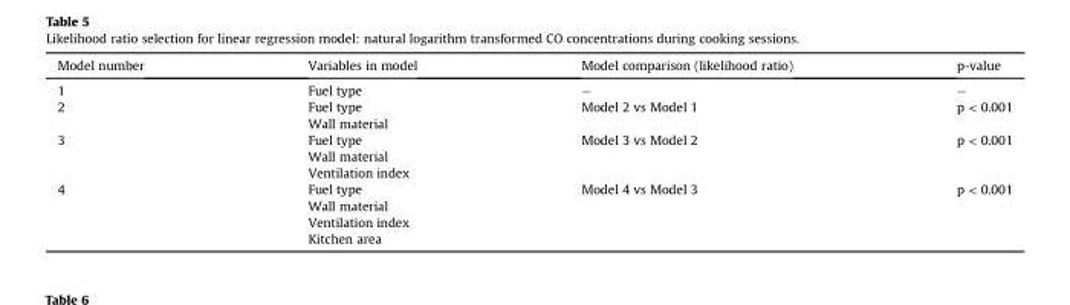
<table><thead><tr><td>Model number</td><td>Variables in model</td><td>Model comparison (likelihood ratio)</td><td>p-value</td></tr></thead><tbody><tr><td>1</td><td>Fuel type</td><td>–</td><td>–</td></tr><tr><td rowspan="2">2</td><td>Fuel type</td><td rowspan="2">Model 2 vs Model 1</td><td rowspan="2">p &lt; 0.001</td></tr><tr><td>Wall material</td></tr><tr><td rowspan="3">3</td><td>Fuel type</td><td rowspan="3">Model 3 vs Model 2</td><td rowspan="3">p &lt; 0.001</td></tr><tr><td>Wall material</td></tr><tr><td>Ventilation index</td></tr><tr><td rowspan="4">4</td><td>Fuel type</td><td rowspan="4">Model 4 vs Model 3</td><td rowspan="4">p &lt; 0.001</td></tr><tr><td>Wall material</td></tr><tr><td>Ventilation index</td></tr><tr><td>Kitchen area</td></tr></tbody></table>